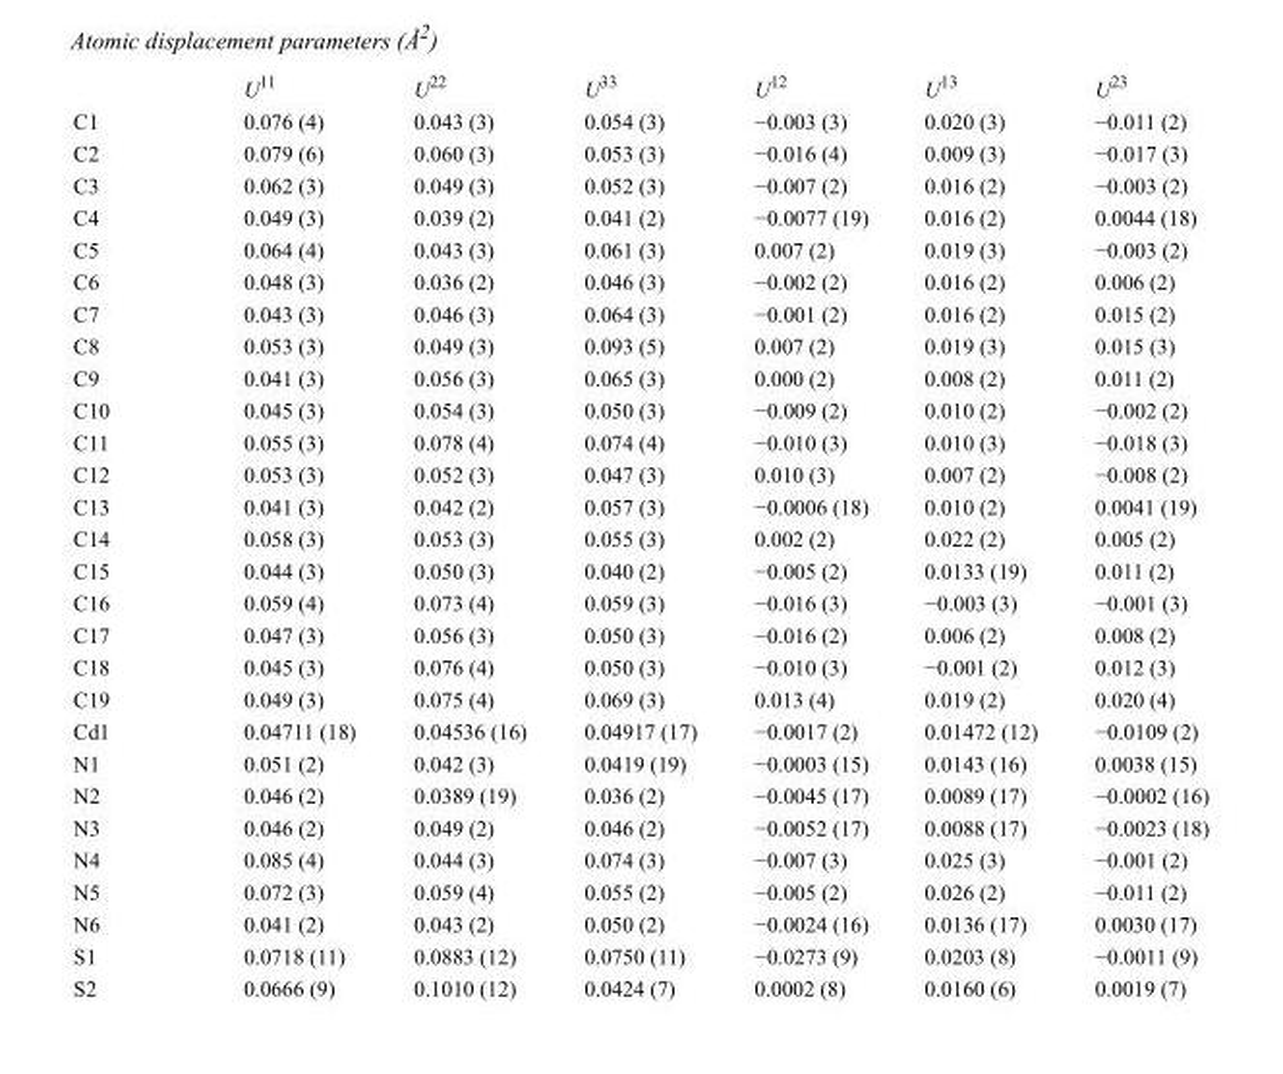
<table><thead><tr><td></td><td>U<sup>11</sup></td><td>U<sup>22</sup></td><td>U<sup>33</sup></td><td>U<sup>12</sup></td><td>U<sup>13</sup></td><td>U<sup>23</sup></td></tr></thead><tbody><tr><td>C1</td><td>0.076 (4)</td><td>0.043 (3)</td><td>0.054 (3)</td><td>−0.003 (3)</td><td>0.020 (3)</td><td>−0.011 (2)</td></tr><tr><td>C2</td><td>0.079 (6)</td><td>0.060 (3)</td><td>0.053 (3)</td><td>−0.016 (4)</td><td>0.009 (3)</td><td>−0.017 (3)</td></tr><tr><td>C3</td><td>0.062 (3)</td><td>0.049 (3)</td><td>0.052 (3)</td><td>−0.007 (2)</td><td>0.016 (2)</td><td>−0.003 (2)</td></tr><tr><td>C4</td><td>0.049 (3)</td><td>0.039 (2)</td><td>0.041 (2)</td><td>−0.0077 (19)</td><td>0.016 (2)</td><td>0.0044 (18)</td></tr><tr><td>C5</td><td>0.064 (4)</td><td>0.043 (3)</td><td>0.061 (3)</td><td>0.007 (2)</td><td>0.019 (3)</td><td>−0.003 (2)</td></tr><tr><td>C6</td><td>0.048 (3)</td><td>0.036 (2)</td><td>0.046 (3)</td><td>−0.002 (2)</td><td>0.016 (2)</td><td>0.006 (2)</td></tr><tr><td>C7</td><td>0.043 (3)</td><td>0.046 (3)</td><td>0.064 (3)</td><td>−0.001 (2)</td><td>0.016 (2)</td><td>0.015 (2)</td></tr><tr><td>C8</td><td>0.053 (3)</td><td>0.049 (3)</td><td>0.093 (5)</td><td>0.007 (2)</td><td>0.019 (3)</td><td>0.015 (3)</td></tr><tr><td>C9</td><td>0.041 (3)</td><td>0.056 (3)</td><td>0.065 (3)</td><td>0.000 (2)</td><td>0.008 (2)</td><td>0.011 (2)</td></tr><tr><td>C10</td><td>0.045 (3)</td><td>0.054 (3)</td><td>0.050 (3)</td><td>−0.009 (2)</td><td>0.010 (2)</td><td>−0.002 (2)</td></tr><tr><td>C11</td><td>0.055 (3)</td><td>0.078 (4)</td><td>0.074 (4)</td><td>−0.010 (3)</td><td>0.010 (3)</td><td>−0.018 (3)</td></tr><tr><td>C12</td><td>0.053 (3)</td><td>0.052 (3)</td><td>0.047 (3)</td><td>0.010 (3)</td><td>0.007 (2)</td><td>−0.008 (2)</td></tr><tr><td>C13</td><td>0.041 (3)</td><td>0.042 (2)</td><td>0.057 (3)</td><td>−0.0006 (18)</td><td>0.010 (2)</td><td>0.0041 (19)</td></tr><tr><td>C14</td><td>0.058 (3)</td><td>0.053 (3)</td><td>0.055 (3)</td><td>0.002 (2)</td><td>0.022 (2)</td><td>0.005 (2)</td></tr><tr><td>C15</td><td>0.044 (3)</td><td>0.050 (3)</td><td>0.040 (2)</td><td>−0.005 (2)</td><td>0.0133 (19)</td><td>0.011 (2)</td></tr><tr><td>C16</td><td>0.059 (4)</td><td>0.073 (4)</td><td>0.059 (3)</td><td>−0.016 (3)</td><td>−0.003 (3)</td><td>−0.001 (3)</td></tr><tr><td>C17</td><td>0.047 (3)</td><td>0.056 (3)</td><td>0.050 (3)</td><td>−0.016 (2)</td><td>0.006 (2)</td><td>0.008 (2)</td></tr><tr><td>C18</td><td>0.045 (3)</td><td>0.076 (4)</td><td>0.050 (3)</td><td>−0.010 (3)</td><td>−0.001 (2)</td><td>0.012 (3)</td></tr><tr><td>C19</td><td>0.049 (3)</td><td>0.075 (4)</td><td>0.069 (3)</td><td>0.013 (4)</td><td>0.019 (2)</td><td>0.020 (4)</td></tr><tr><td>Cd1</td><td>0.04711 (18)</td><td>0.04536 (16)</td><td>0.04917 (17)</td><td>−0.0017 (2)</td><td>0.01472 (12)</td><td>−0.0109 (2)</td></tr><tr><td>N1</td><td>0.051 (2)</td><td>0.042 (3)</td><td>0.0419 (19)</td><td>−0.0003 (15)</td><td>0.0143 (16)</td><td>0.0038 (15)</td></tr><tr><td>N2</td><td>0.046 (2)</td><td>0.0389 (19)</td><td>0.036 (2)</td><td>−0.0045 (17)</td><td>0.0089 (17)</td><td>−0.0002 (16)</td></tr><tr><td>N3</td><td>0.046 (2)</td><td>0.049 (2)</td><td>0.046 (2)</td><td>−0.0052 (17)</td><td>0.0088 (17)</td><td>−0.0023 (18)</td></tr><tr><td>N4</td><td>0.085 (4)</td><td>0.044 (3)</td><td>0.074 (3)</td><td>−0.007 (3)</td><td>0.025 (3)</td><td>−0.001 (2)</td></tr><tr><td>N5</td><td>0.072 (3)</td><td>0.059 (4)</td><td>0.055 (2)</td><td>−0.005 (2)</td><td>0.026 (2)</td><td>−0.011 (2)</td></tr><tr><td>N6</td><td>0.041 (2)</td><td>0.043 (2)</td><td>0.050 (2)</td><td>−0.0024 (16)</td><td>0.0136 (17)</td><td>0.0030 (17)</td></tr><tr><td>S1</td><td>0.0718 (11)</td><td>0.0883 (12)</td><td>0.0750 (11)</td><td>−0.0273 (9)</td><td>0.0203 (8)</td><td>−0.0011 (9)</td></tr><tr><td>S2</td><td>0.0666 (9)</td><td>0.1010 (12)</td><td>0.0424 (7)</td><td>0.0002 (8)</td><td>0.0160 (6)</td><td>0.0019 (7)</td></tr></tbody></table>